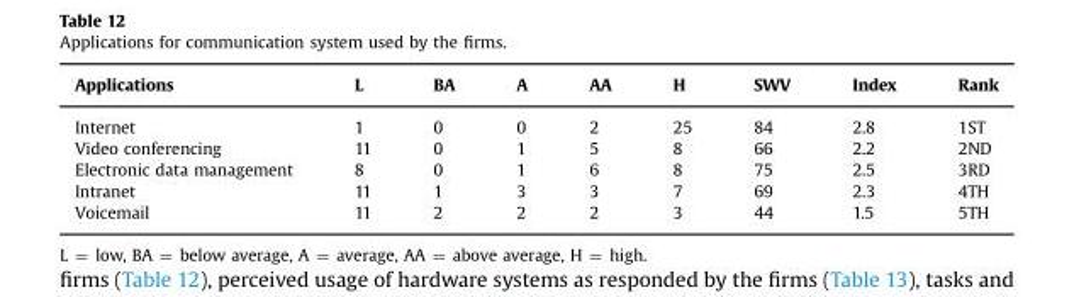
<table><thead><tr><td>Applications</td><td>L</td><td>BA</td><td>A</td><td>AA</td><td>H</td><td>SWV</td><td>Index</td><td>Rank</td></tr></thead><tbody><tr><td>Internet</td><td>1</td><td>0</td><td>0</td><td>2</td><td>25</td><td>84</td><td>2.8</td><td>1ST</td></tr><tr><td>Video conferencing</td><td>11</td><td>0</td><td>1</td><td>5</td><td>8</td><td>66</td><td>2.2</td><td>2ND</td></tr><tr><td>Electronic data management</td><td>8</td><td>0</td><td>1</td><td>6</td><td>8</td><td>75</td><td>2.5</td><td>3RD</td></tr><tr><td>Intranet</td><td>11</td><td>1</td><td>3</td><td>3</td><td>7</td><td>69</td><td>2.3</td><td>4TH</td></tr><tr><td>Voicemail</td><td>11</td><td>2</td><td>2</td><td>2</td><td>3</td><td>44</td><td>1.5</td><td>5TH</td></tr></tbody></table>